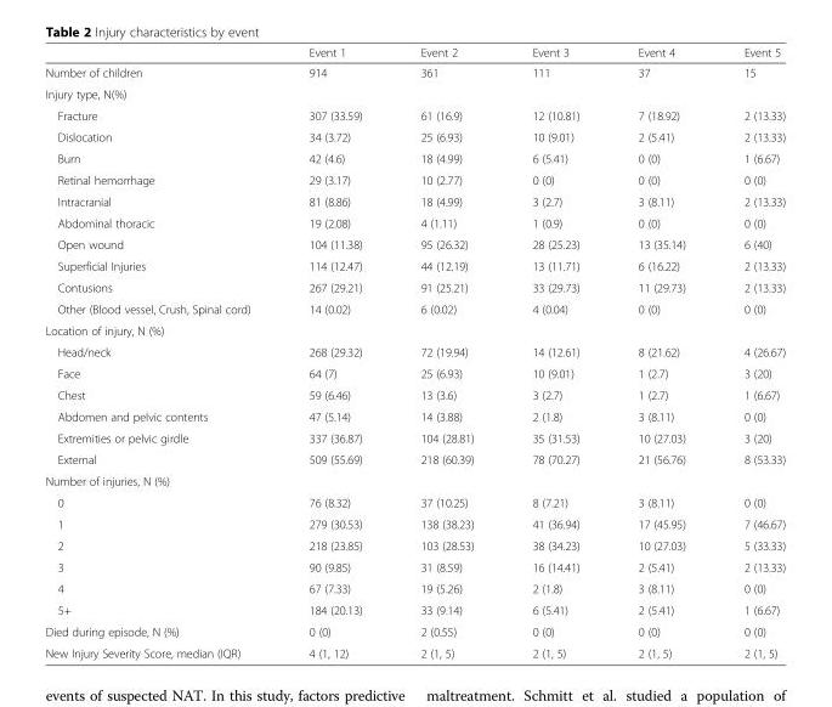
<table><thead><tr><td></td><td>Event 1</td><td>Event 2</td><td>Event 3</td><td>Event 4</td><td>Event 5</td></tr></thead><tbody><tr><td>Number of children</td><td>914</td><td>361</td><td>111</td><td>37</td><td>15</td></tr><tr><td colspan="6">Injury type, N(%)</td></tr><tr><td>Fracture</td><td>307 (33.59)</td><td>61 (16.9)</td><td>12 (10.81)</td><td>7 (18.92)</td><td>2 (13.33)</td></tr><tr><td>Dislocation</td><td>34 (3.72)</td><td>25 (6.93)</td><td>10 (9.01)</td><td>2 (5.41)</td><td>2 (13.33)</td></tr><tr><td>Burn</td><td>42 (4.6)</td><td>18 (4.99)</td><td>6 (5.41)</td><td>0 (0)</td><td>1 (6.67)</td></tr><tr><td>Retinal hemorrhage</td><td>29 (3.17)</td><td>10 (2.77)</td><td>0 (0)</td><td>0 (0)</td><td>0 (0)</td></tr><tr><td>Intracranial</td><td>81 (8.86)</td><td>18 (4.99)</td><td>3 (2.7)</td><td>3 (8.11)</td><td>2 (13.33)</td></tr><tr><td>Abdominal thoracic</td><td>19 (2.08)</td><td>4 (1.11)</td><td>1 (0.9)</td><td>0 (0)</td><td>0 (0)</td></tr><tr><td>Open wound</td><td>104 (11.38)</td><td>95 (26.32)</td><td>28 (25.23)</td><td>13 (35.14)</td><td>6 (40)</td></tr><tr><td>Superficial Injuries</td><td>114 (12.47)</td><td>44 (12.19)</td><td>13 (11.71)</td><td>6 (16.22)</td><td>2 (13.33)</td></tr><tr><td>Contusions</td><td>267 (29.21)</td><td>91 (25.21)</td><td>33 (29.73)</td><td>11 (29.73)</td><td>2 (13.33)</td></tr><tr><td>Other (Blood vessel, Crush, Spinal cord)</td><td>14 (0.02)</td><td>6 (0.02)</td><td>4 (0.04)</td><td>0 (0)</td><td>0 (0)</td></tr><tr><td colspan="6">Location of injury, N (%)</td></tr><tr><td>Head/neck</td><td>268 (29.32)</td><td>72 (19.94)</td><td>14 (12.61)</td><td>8 (21.62)</td><td>4 (26.67)</td></tr><tr><td>Face</td><td>64 (7)</td><td>25 (6.93)</td><td>10 (9.01)</td><td>1 (2.7)</td><td>3 (20)</td></tr><tr><td>Chest</td><td>59 (6.46)</td><td>13 (3.6)</td><td>3 (2.7)</td><td>1 (2.7)</td><td>1 (6.67)</td></tr><tr><td>Abdomen and pelvic contents</td><td>47 (5.14)</td><td>14 (3.88)</td><td>2 (1.8)</td><td>3 (8.11)</td><td>0 (0)</td></tr><tr><td>Extremities or pelvic girdle</td><td>337 (36.87)</td><td>104 (28.81)</td><td>35 (31.53)</td><td>10 (27.03)</td><td>3 (20)</td></tr><tr><td>External</td><td>509 (55.69)</td><td>218 (60.39)</td><td>78 (70.27)</td><td>21 (56.76)</td><td>8 (53.33)</td></tr><tr><td colspan="6">Number of injuries, N (%)</td></tr><tr><td>0</td><td>76 (8.32)</td><td>37 (10.25)</td><td>8 (7.21)</td><td>3 (8.11)</td><td>0 (0)</td></tr><tr><td>1</td><td>279 (30.53)</td><td>138 (38.23)</td><td>41 (36.94)</td><td>17 (45.95)</td><td>7 (46.67)</td></tr><tr><td>2</td><td>218 (23.85)</td><td>103 (28.53)</td><td>38 (34.23)</td><td>10 (27.03)</td><td>5 (33.33)</td></tr><tr><td>3</td><td>90 (9.85)</td><td>31 (8.59)</td><td>16 (14.41)</td><td>2 (5.41)</td><td>2 (13.33)</td></tr><tr><td>4</td><td>67 (7.33)</td><td>19 (5.26)</td><td>2 (1.8)</td><td>3 (8.11)</td><td>0 (0)</td></tr><tr><td>5+</td><td>184 (20.13)</td><td>33 (9.14)</td><td>6 (5.41)</td><td>2 (5.41)</td><td>1 (6.67)</td></tr><tr><td>Died during episode, N (%)</td><td>0 (0)</td><td>2 (0.55)</td><td>0 (0)</td><td>0 (0)</td><td>0 (0)</td></tr><tr><td>New Injury Severity Score, median (IQR)</td><td>4 (1, 12)</td><td>2 (1, 5)</td><td>2 (1, 5)</td><td>2 (1, 5)</td><td>2 (1, 5)</td></tr></tbody></table>